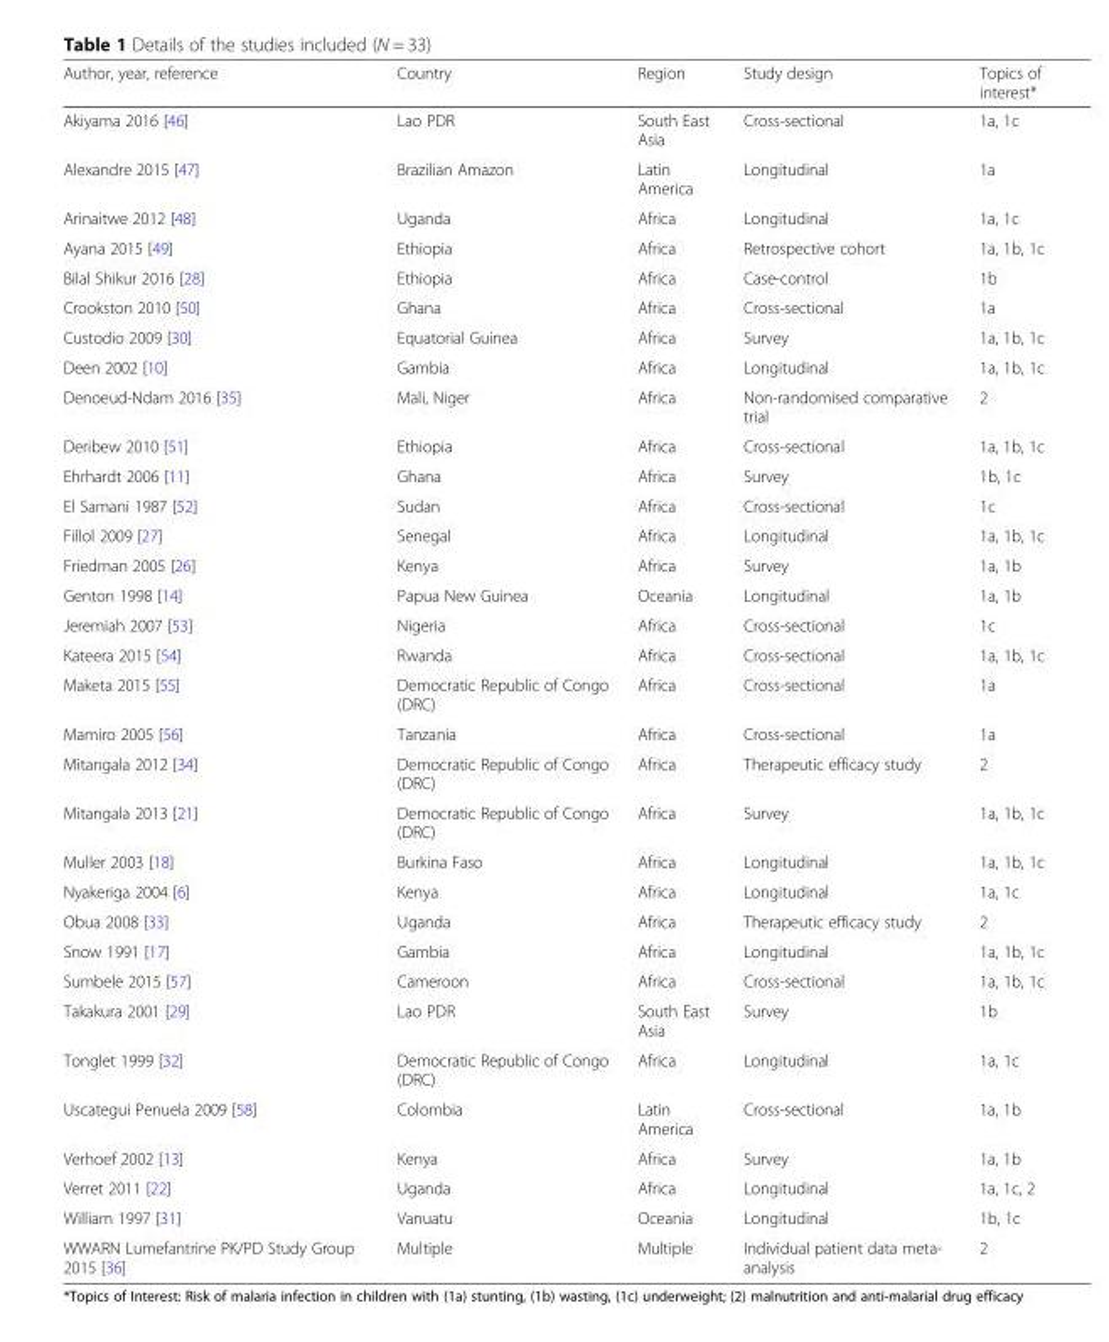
<table><thead><tr><td>Author, year, reference</td><td>Country</td><td>Region</td><td>Study design</td><td>Topics of interest*</td></tr></thead><tbody><tr><td>Akiyama 2016 [46]</td><td>Lao PDR</td><td>South East Asia</td><td>Cross-sectional</td><td>1a, 1c</td></tr><tr><td>Alexandre 2015 [47]</td><td>Brazilian Amazon</td><td>Latin America</td><td>Longitudinal</td><td>1a</td></tr><tr><td>Arinaitwe 2012 [48]</td><td>Uganda</td><td>Africa</td><td>Longitudinal</td><td>1a, 1c</td></tr><tr><td>Ayana 2015 [49]</td><td>Ethiopia</td><td>Africa</td><td>Retrospective cohort</td><td>1a, 1b, 1c</td></tr><tr><td>Bilal Shikur 2016 [28]</td><td>Ethiopia</td><td>Africa</td><td>Case-control</td><td>1b</td></tr><tr><td>Crookston 2010 [50]</td><td>Ghana</td><td>Africa</td><td>Cross-sectional</td><td>1a</td></tr><tr><td>Custodio 2009 [30]</td><td>Equatorial Guinea</td><td>Africa</td><td>Survey</td><td>1a, 1b, 1c</td></tr><tr><td>Deen 2002 [10]</td><td>Gambia</td><td>Africa</td><td>Longitudinal</td><td>1a, 1b, 1c</td></tr><tr><td>Denoeud-Ndam 2016 [35]</td><td>Mali, Niger</td><td>Africa</td><td>Non-randomised comparative trial</td><td>2</td></tr><tr><td>Deribew 2010 [51]</td><td>Ethiopia</td><td>Africa</td><td>Cross-sectional</td><td>1a, 1b, 1c</td></tr><tr><td>Ehrhardt 2006 [11]</td><td>Ghana</td><td>Africa</td><td>Survey</td><td>1b, 1c</td></tr><tr><td>El Samani 1987 [52]</td><td>Sudan</td><td>Africa</td><td>Cross-sectional</td><td>1c</td></tr><tr><td>Fillol 2009 [27]</td><td>Senegal</td><td>Africa</td><td>Longitudinal</td><td>1a, 1b, 1c</td></tr><tr><td>Friedman 2005 [26]</td><td>Kenya</td><td>Africa</td><td>Survey</td><td>1a, 1b</td></tr><tr><td>Genton 1998 [14]</td><td>Papua New Guinea</td><td>Oceania</td><td>Longitudinal</td><td>1a, 1b</td></tr><tr><td>Jeremiah 2007 [53]</td><td>Nigeria</td><td>Africa</td><td>Cross-sectional</td><td>1c</td></tr><tr><td>Kateera 2015 [54]</td><td>Rwanda</td><td>Africa</td><td>Cross-sectional</td><td>1a, 1b, 1c</td></tr><tr><td>Maketa 2015 [55]</td><td>Democratic Republic of Congo (DRC)</td><td>Africa</td><td>Cross-sectional</td><td>1a</td></tr><tr><td>Mamiro 2005 [56]</td><td>Tanzania</td><td>Africa</td><td>Cross-sectional</td><td>1a</td></tr><tr><td>Mitangala 2012 [34]</td><td>Democratic Republic of Congo (DRC)</td><td>Africa</td><td>Therapeutic efficacy study</td><td>2</td></tr><tr><td>Mitangala 2013 [21]</td><td>Democratic Republic of Congo (DRC)</td><td>Africa</td><td>Survey</td><td>1a, 1b, 1c</td></tr><tr><td>Muller 2003 [18]</td><td>Burkina Faso</td><td>Africa</td><td>Longitudinal</td><td>1a, 1b, 1c</td></tr><tr><td>Nyakeriga 2004 [6]</td><td>Kenya</td><td>Africa</td><td>Longitudinal</td><td>1a, 1c</td></tr><tr><td>Obua 2008 [33]</td><td>Uganda</td><td>Africa</td><td>Therapeutic efficacy study</td><td>2</td></tr><tr><td>Snow 1991 [17]</td><td>Gambia</td><td>Africa</td><td>Longitudinal</td><td>1a, 1b, 1c</td></tr><tr><td>Sumbele 2015 [57]</td><td>Cameroon</td><td>Africa</td><td>Cross-sectional</td><td>1a, 1b, 1c</td></tr><tr><td>Takakura 2001 [29]</td><td>Lao PDR</td><td>South East Asia</td><td>Survey</td><td>1b</td></tr><tr><td>Tonglet 1999 [32]</td><td>Democratic Republic of Congo (DRC)</td><td>Africa</td><td>Longitudinal</td><td>1a, 1c</td></tr><tr><td>Uscategui Penuela 2009 [58]</td><td>Colombia</td><td>Latin America</td><td>Cross-sectional</td><td>1a, 1b</td></tr><tr><td>Verhoef 2002 [13]</td><td>Kenya</td><td>Africa</td><td>Survey</td><td>1a, 1b</td></tr><tr><td>Verret 2011 [22]</td><td>Uganda</td><td>Africa</td><td>Longitudinal</td><td>1a, 1c, 2</td></tr><tr><td>William 1997 [31]</td><td>Vanuatu</td><td>Oceania</td><td>Longitudinal</td><td>1b, 1c</td></tr><tr><td>WWARN Lumefantrine PK/PD Study Group 2015 [36]</td><td>Multiple</td><td>Multiple</td><td>Individual patient data meta- analysis</td><td>2</td></tr></tbody></table>